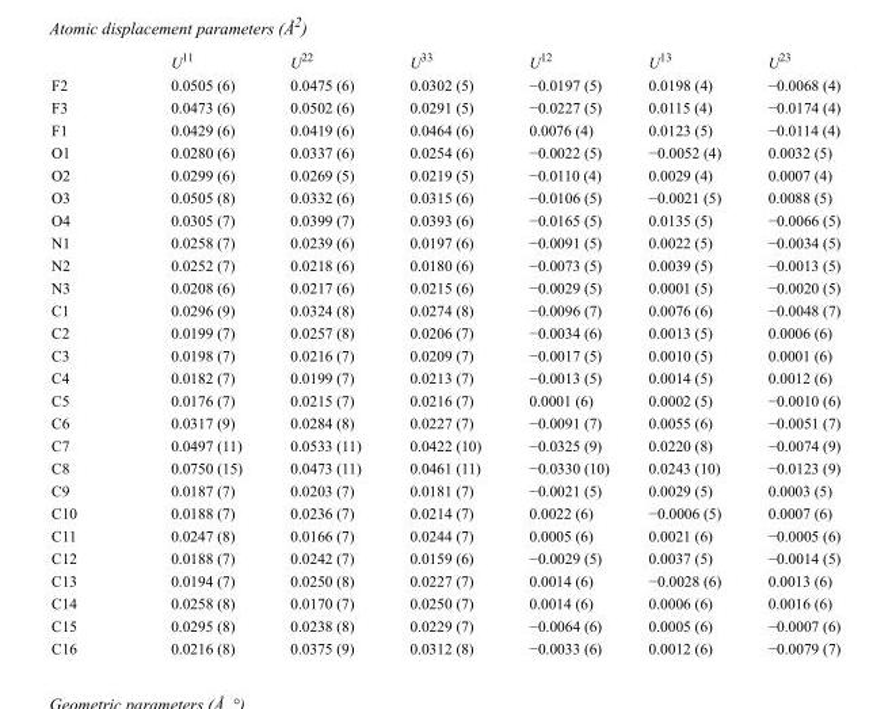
<table><thead><tr><td></td><td>U<sup>11</sup></td><td>U<sup>22</sup></td><td>U<sup>33</sup></td><td>U<sup>12</sup></td><td>U<sup>13</sup></td><td>U<sup>23</sup></td></tr></thead><tbody><tr><td>F2</td><td>0.0505 (6)</td><td>0.0475 (6)</td><td>0.0302 (5)</td><td>−0.0197 (5)</td><td>0.0198 (4)</td><td>−0.0068 (4)</td></tr><tr><td>F3</td><td>0.0473 (6)</td><td>0.0502 (6)</td><td>0.0291 (5)</td><td>−0.0227 (5)</td><td>0.0115 (4)</td><td>−0.0174 (4)</td></tr><tr><td>F1</td><td>0.0429 (6)</td><td>0.0419 (6)</td><td>0.0464 (6)</td><td>0.0076 (4)</td><td>0.0123 (5)</td><td>−0.0114 (4)</td></tr><tr><td>O1</td><td>0.0280 (6)</td><td>0.0337 (6)</td><td>0.0254 (6)</td><td>−0.0022 (5)</td><td>−0.0052 (4)</td><td>0.0032 (5)</td></tr><tr><td>O2</td><td>0.0299 (6)</td><td>0.0269 (5)</td><td>0.0219 (5)</td><td>−0.0110 (4)</td><td>0.0029 (4)</td><td>0.0007 (4)</td></tr><tr><td>O3</td><td>0.0505 (8)</td><td>0.0332 (6)</td><td>0.0315 (6)</td><td>−0.0106 (5)</td><td>−0.0021 (5)</td><td>0.0088 (5)</td></tr><tr><td>O4</td><td>0.0305 (7)</td><td>0.0399 (7)</td><td>0.0393 (6)</td><td>−0.0165 (5)</td><td>0.0135 (5)</td><td>−0.0066 (5)</td></tr><tr><td>N1</td><td>0.0258 (7)</td><td>0.0239 (6)</td><td>0.0197 (6)</td><td>−0.0091 (5)</td><td>0.0022 (5)</td><td>−0.0034 (5)</td></tr><tr><td>N2</td><td>0.0252 (7)</td><td>0.0218 (6)</td><td>0.0180 (6)</td><td>−0.0073 (5)</td><td>0.0039 (5)</td><td>−0.0013 (5)</td></tr><tr><td>N3</td><td>0.0208 (6)</td><td>0.0217 (6)</td><td>0.0215 (6)</td><td>−0.0029 (5)</td><td>0.0001 (5)</td><td>−0.0020 (5)</td></tr><tr><td>C1</td><td>0.0296 (9)</td><td>0.0324 (8)</td><td>0.0274 (8)</td><td>−0.0096 (7)</td><td>0.0076 (6)</td><td>−0.0048 (7)</td></tr><tr><td>C2</td><td>0.0199 (7)</td><td>0.0257 (8)</td><td>0.0206 (7)</td><td>−0.0034 (6)</td><td>0.0013 (5)</td><td>0.0006 (6)</td></tr><tr><td>C3</td><td>0.0198 (7)</td><td>0.0216 (7)</td><td>0.0209 (7)</td><td>−0.0017 (5)</td><td>0.0010 (5)</td><td>0.0001 (6)</td></tr><tr><td>C4</td><td>0.0182 (7)</td><td>0.0199 (7)</td><td>0.0213 (7)</td><td>−0.0013 (5)</td><td>0.0014 (5)</td><td>0.0012 (6)</td></tr><tr><td>C5</td><td>0.0176 (7)</td><td>0.0215 (7)</td><td>0.0216 (7)</td><td>0.0001 (6)</td><td>0.0002 (5)</td><td>−0.0010 (6)</td></tr><tr><td>C6</td><td>0.0317 (9)</td><td>0.0284 (8)</td><td>0.0227 (7)</td><td>−0.0091 (7)</td><td>0.0055 (6)</td><td>−0.0051 (7)</td></tr><tr><td>C7</td><td>0.0497 (11)</td><td>0.0533 (11)</td><td>0.0422 (10)</td><td>−0.0325 (9)</td><td>0.0220 (8)</td><td>−0.0074 (9)</td></tr><tr><td>C8</td><td>0.0750 (15)</td><td>0.0473 (11)</td><td>0.0461 (11)</td><td>−0.0330 (10)</td><td>0.0243 (10)</td><td>−0.0123 (9)</td></tr><tr><td>C9</td><td>0.0187 (7)</td><td>0.0203 (7)</td><td>0.0181 (7)</td><td>−0.0021 (5)</td><td>0.0029 (5)</td><td>0.0003 (5)</td></tr><tr><td>C10</td><td>0.0188 (7)</td><td>0.0236 (7)</td><td>0.0214 (7)</td><td>0.0022 (6)</td><td>−0.0006 (5)</td><td>0.0007 (6)</td></tr><tr><td>C11</td><td>0.0247 (8)</td><td>0.0166 (7)</td><td>0.0244 (7)</td><td>0.0005 (6)</td><td>0.0021 (6)</td><td>−0.0005 (6)</td></tr><tr><td>C12</td><td>0.0188 (7)</td><td>0.0242 (7)</td><td>0.0159 (6)</td><td>−0.0029 (5)</td><td>0.0037 (5)</td><td>−0.0014 (5)</td></tr><tr><td>C13</td><td>0.0194 (7)</td><td>0.0250 (8)</td><td>0.0227 (7)</td><td>0.0014 (6)</td><td>−0.0028 (6)</td><td>0.0013 (6)</td></tr><tr><td>C14</td><td>0.0258 (8)</td><td>0.0170 (7)</td><td>0.0250 (7)</td><td>0.0014 (6)</td><td>0.0006 (6)</td><td>0.0016 (6)</td></tr><tr><td>C15</td><td>0.0295 (8)</td><td>0.0238 (8)</td><td>0.0229 (7)</td><td>−0.0064 (6)</td><td>0.0005 (6)</td><td>−0.0007 (6)</td></tr><tr><td>C16</td><td>0.0216 (8)</td><td>0.0375 (9)</td><td>0.0312 (8)</td><td>−0.0033 (6)</td><td>0.0012 (6)</td><td>−0.0079 (7)</td></tr></tbody></table>